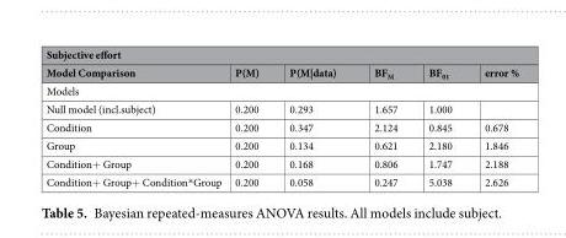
<table><thead><tr><td colspan="6">Subjective effort</td></tr><tr><td>Model Comparison</td><td>P(M)</td><td>P(M|data)</td><td>BF<sub>M</sub></td><td>BF<sub>01</sub></td><td>error %</td></tr></thead><tbody><tr><td colspan="6">Models</td></tr><tr><td>Null model (incl.subject)</td><td>0.200</td><td>0.293</td><td>1.657</td><td>1.000</td><td></td></tr><tr><td>Condition</td><td>0.200</td><td>0.347</td><td>2.124</td><td>0.845</td><td>0.678</td></tr><tr><td>Group</td><td>0.200</td><td>0.134</td><td>0.621</td><td>2.180</td><td>1.846</td></tr><tr><td>Condition+ Group</td><td>0.200</td><td>0.168</td><td>0.806</td><td>1.747</td><td>2.188</td></tr><tr><td>Condition+ Group+ Condition*Group</td><td>0.200</td><td>0.058</td><td>0.247</td><td>5.038</td><td>2.626</td></tr></tbody></table>